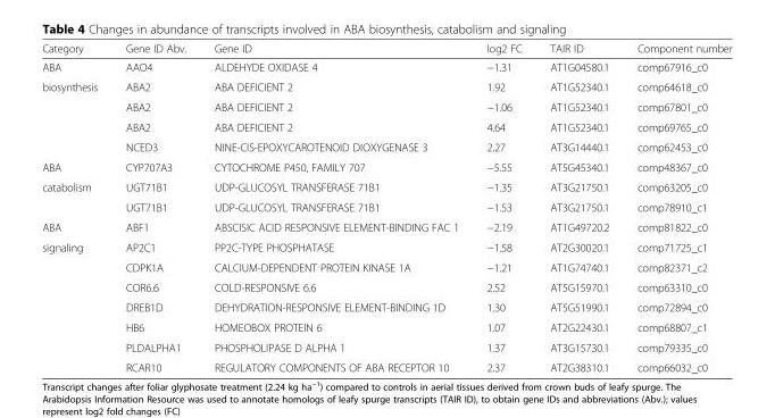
<table><thead><tr><td>Category</td><td>Gene ID Abv.</td><td>Gene ID</td><td>log2 FC</td><td>TAIR ID</td><td>Component number</td></tr></thead><tbody><tr><td>ABA</td><td>AAO4</td><td>ALDEHYDE OXIDASE 4</td><td>−1.31</td><td>AT1G04580.1</td><td>comp67916_c0</td></tr><tr><td rowspan="4">biosynthesis</td><td>ABA2</td><td>ABA DEFICIENT 2</td><td>1.92</td><td>AT1G52340.1</td><td>comp64618_c0</td></tr><tr><td>ABA2</td><td>ABA DEFICIENT 2</td><td>−1.06</td><td>AT1G52340.1</td><td>comp67801_c0</td></tr><tr><td>ABA2</td><td>ABA DEFICIENT 2</td><td>4.64</td><td>AT1G52340.1</td><td>comp69765_c0</td></tr><tr><td>NCED3</td><td>NINE-CIS-EPOXYCAROTENOID DIOXYGENASE 3</td><td>2.27</td><td>AT3G14440.1</td><td>comp62453_c0</td></tr><tr><td>ABA</td><td>CYP707A3</td><td>CYTOCHROME P450, FAMILY 707</td><td>−5.55</td><td>AT5G45340.1</td><td>comp48367_c0</td></tr><tr><td rowspan="2">catabolism</td><td>UGT71B1</td><td>UDP-GLUCOSYL TRANSFERASE 71B1</td><td>−1.35</td><td>AT3G21750.1</td><td>comp63205_c0</td></tr><tr><td>UGT71B1</td><td>UDP-GLUCOSYL TRANSFERASE 71B1</td><td>−1.53</td><td>AT3G21750.1</td><td>comp78910_c1</td></tr><tr><td>ABA</td><td>ABF1</td><td>ABSCISIC ACID RESPONSIVE ELEMENT-BINDING FAC 1</td><td>−2.19</td><td>AT1G49720.2</td><td>comp81822_c0</td></tr><tr><td rowspan="7">signaling</td><td>AP2C1</td><td>PP2C-TYPE PHOSPHATASE</td><td>−1.58</td><td>AT2G30020.1</td><td>comp71725_c1</td></tr><tr><td>CDPK1A</td><td>CALCIUM-DEPENDENT PROTEIN KINASE 1A</td><td>−1.21</td><td>AT1G74740.1</td><td>comp82371_c2</td></tr><tr><td>COR6.6</td><td>COLD-RESPONSIVE 6.6</td><td>2.52</td><td>AT5G15970.1</td><td>comp63310_c0</td></tr><tr><td>DREB1D</td><td>DEHYDRATION-RESPONSIVE ELEMENT-BINDING 1D</td><td>1.30</td><td>AT5G51990.1</td><td>comp72894_c0</td></tr><tr><td>HB6</td><td>HOMEOBOX PROTEIN 6</td><td>1.07</td><td>AT2G22430.1</td><td>comp68807_c1</td></tr><tr><td>PLDALPHA1</td><td>PHOSPHOLIPASE D ALPHA 1</td><td>1.37</td><td>AT3G15730.1</td><td>comp79335_c0</td></tr><tr><td>RCAR10</td><td>REGULATORY COMPONENTS OF ABA RECEPTOR 10</td><td>2.37</td><td>AT2G38310.1</td><td>comp66032_c0</td></tr></tbody></table>